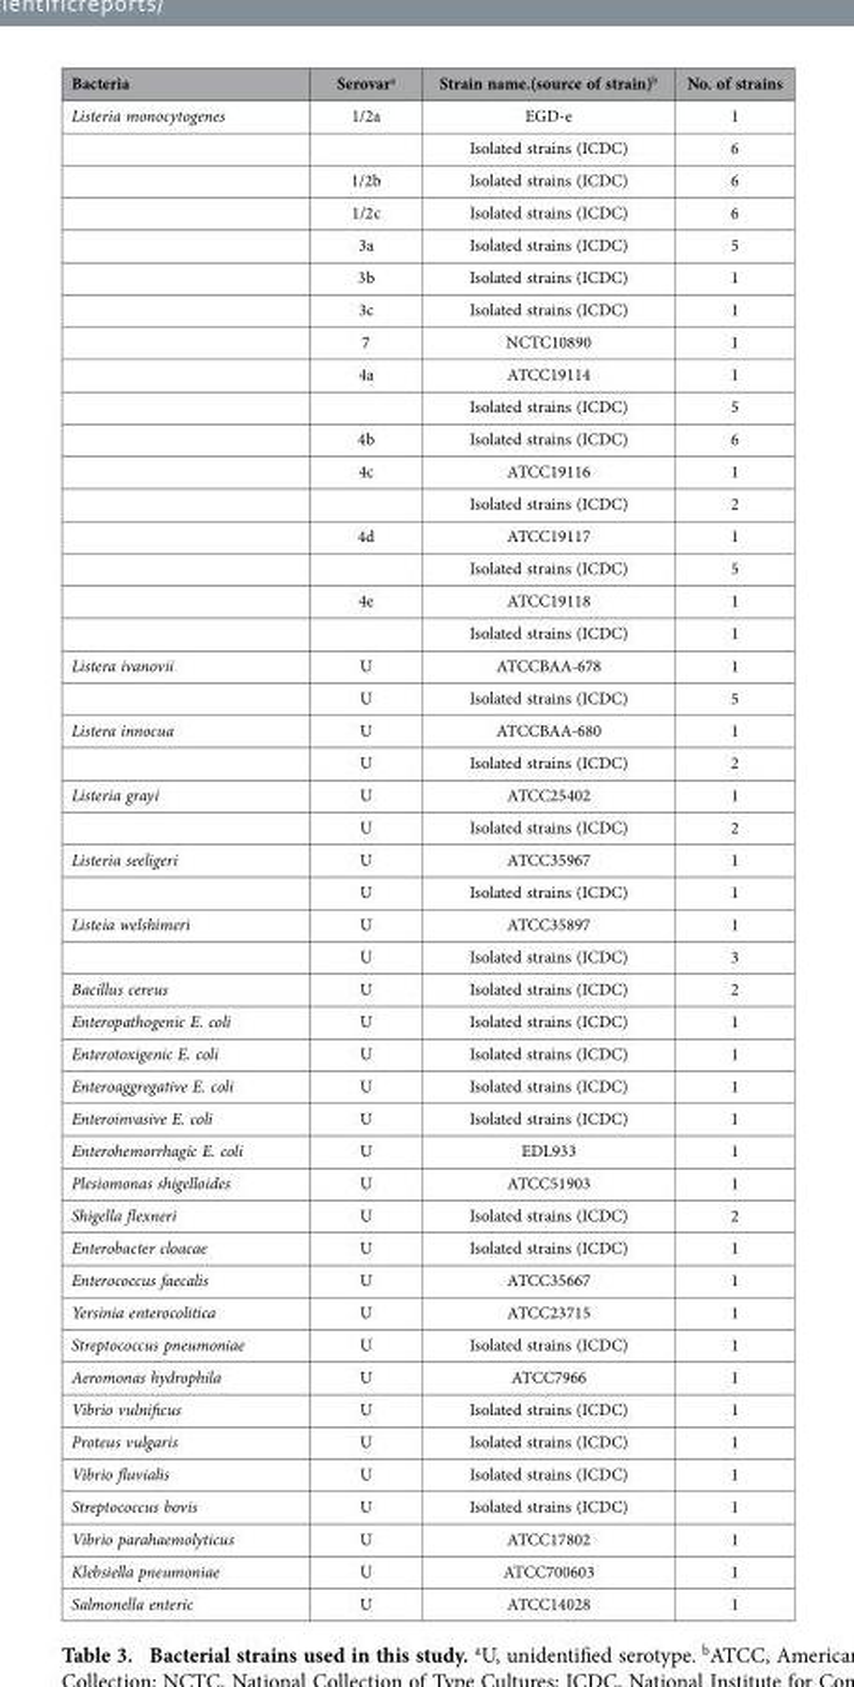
<table><thead><tr><td>Bacteria</td><td>Serovar<sup>a</sup></td><td>Strain name.(source of strain)<sup>b</sup></td><td>No. of strains</td></tr></thead><tbody><tr><td rowspan="17">Listeria monocytogenes</td><td>1/2a</td><td>EGD-e</td><td>1</td></tr><tr><td></td><td>Isolated strains (ICDC)</td><td>6</td></tr><tr><td>1/2b</td><td>Isolated strains (ICDC)</td><td>6</td></tr><tr><td>1/2c</td><td>Isolated strains (ICDC)</td><td>6</td></tr><tr><td>3a</td><td>Isolated strains (ICDC)</td><td>5</td></tr><tr><td>3b</td><td>Isolated strains (ICDC)</td><td>1</td></tr><tr><td>3c</td><td>Isolated strains (ICDC)</td><td>1</td></tr><tr><td>7</td><td>NCTC10890</td><td>1</td></tr><tr><td>4a</td><td>ATCC19114</td><td>1</td></tr><tr><td></td><td>Isolated strains (ICDC)</td><td>5</td></tr><tr><td>4b</td><td>Isolated strains (ICDC)</td><td>6</td></tr><tr><td>4c</td><td>ATCC19116</td><td>1</td></tr><tr><td></td><td>Isolated strains (ICDC)</td><td>2</td></tr><tr><td>4d</td><td>ATCC19117</td><td>1</td></tr><tr><td></td><td>Isolated strains (ICDC)</td><td>5</td></tr><tr><td>4e</td><td>ATCC19118</td><td>1</td></tr><tr><td></td><td>Isolated strains (ICDC)</td><td>1</td></tr><tr><td rowspan="2">Listera ivanovii</td><td>U</td><td>ATCCBAA-678</td><td>1</td></tr><tr><td>U</td><td>Isolated strains (ICDC)</td><td>5</td></tr><tr><td rowspan="2">Listera innocua</td><td>U</td><td>ATCCBAA-680</td><td>1</td></tr><tr><td>U</td><td>Isolated strains (ICDC)</td><td>2</td></tr><tr><td rowspan="2">Listeria grayi</td><td>U</td><td>ATCC25402</td><td>1</td></tr><tr><td>U</td><td>Isolated strains (ICDC)</td><td>2</td></tr><tr><td rowspan="2">Listeria seeligeri</td><td>U</td><td>ATCC35967</td><td>1</td></tr><tr><td>U</td><td>Isolated strains (ICDC)</td><td>1</td></tr><tr><td rowspan="2">Listeia welshimeri</td><td>U</td><td>ATCC35897</td><td>1</td></tr><tr><td>U</td><td>Isolated strains (ICDC)</td><td>3</td></tr><tr><td>Bacillus cereus</td><td>U</td><td>Isolated strains (ICDC)</td><td>2</td></tr><tr><td>Enteropathogenic E. coli</td><td>U</td><td>Isolated strains (ICDC)</td><td>1</td></tr><tr><td>Enterotoxigenic E. coli</td><td>U</td><td>Isolated strains (ICDC)</td><td>1</td></tr><tr><td>Enteroaggregative E. coli</td><td>U</td><td>Isolated strains (ICDC)</td><td>1</td></tr><tr><td>Enteroinvasive E. coli</td><td>U</td><td>Isolated strains (ICDC)</td><td>1</td></tr><tr><td>Enterohemorrhagic E. coli</td><td>U</td><td>EDL933</td><td>1</td></tr><tr><td>Plesiomonas shigelloides</td><td>U</td><td>ATCC51903</td><td>1</td></tr><tr><td>Shigella flexneri</td><td>U</td><td>Isolated strains (ICDC)</td><td>2</td></tr><tr><td>Enterobacter cloacae</td><td>U</td><td>Isolated strains (ICDC)</td><td>1</td></tr><tr><td>Enterococcus faecalis</td><td>U</td><td>ATCC35667</td><td>1</td></tr><tr><td>Yersinia enterocolitica</td><td>U</td><td>ATCC23715</td><td>1</td></tr><tr><td>Streptococcus pneumoniae</td><td>U</td><td>Isolated strains (ICDC)</td><td>1</td></tr><tr><td>Aeromonas hydrophila</td><td>U</td><td>ATCC7966</td><td>1</td></tr><tr><td>Vibrio vulnificus</td><td>U</td><td>Isolated strains (ICDC)</td><td>1</td></tr><tr><td>Proteus vulgaris</td><td>U</td><td>Isolated strains (ICDC)</td><td>1</td></tr><tr><td>Vibrio fluvialis</td><td>U</td><td>Isolated strains (ICDC)</td><td>1</td></tr><tr><td>Streptococcus bovis</td><td>U</td><td>Isolated strains (ICDC)</td><td>1</td></tr><tr><td>Vibrio parahaemolyticus</td><td>U</td><td>ATCC17802</td><td>1</td></tr><tr><td>Klebsiella pneumoniae</td><td>U</td><td>ATCC700603</td><td>1</td></tr><tr><td>Salmonella enteric</td><td>U</td><td>ATCC14028</td><td>1</td></tr></tbody></table>